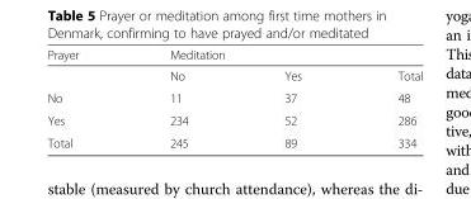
<table><thead><tr><td rowspan="2">Prayer</td><td colspan="2">Meditation</td><td rowspan="2">Total</td></tr><tr><td>No</td><td>Yes</td></tr></thead><tbody><tr><td>No</td><td>11</td><td>37</td><td>48</td></tr><tr><td>Yes</td><td>234</td><td>52</td><td>286</td></tr><tr><td>Total</td><td>245</td><td>89</td><td>334</td></tr></tbody></table>